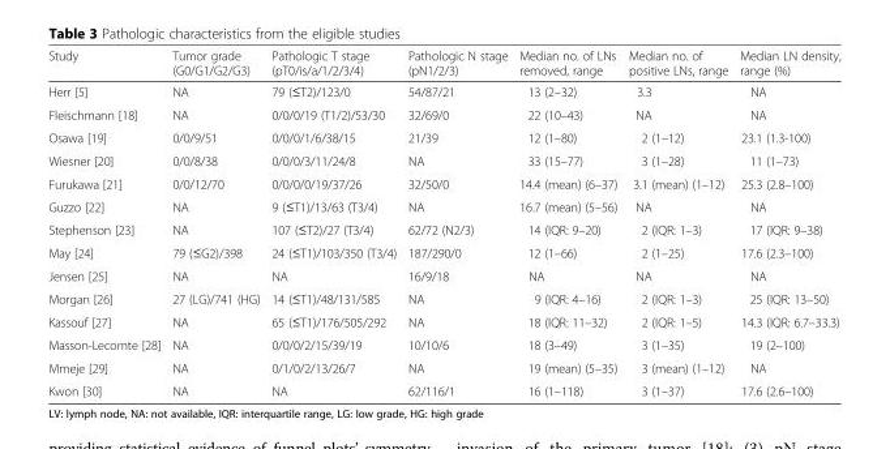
<table><thead><tr><td>Study</td><td>Tumor grade (G0/G1/G2/G3)</td><td>Pathologic T stage (pT0/is/a/1/2/3/4)</td><td>Pathologic N stage (pN1/2/3)</td><td>Median no. of LNs removed, range</td><td>Median no. of positive LNs, range</td><td>Median LN density, range (%)</td></tr></thead><tbody><tr><td>Herr [5]</td><td>NA</td><td>79 (≤T2)/123/0</td><td>54/87/21</td><td>13 (2–32)</td><td>3.3</td><td>NA</td></tr><tr><td>Fleischmann [18]</td><td>NA</td><td>0/0/0/19 (T1/2)/53/30</td><td>32/69/0</td><td>22 (10–43)</td><td>NA</td><td>NA</td></tr><tr><td>Osawa [19]</td><td>0/0/9/51</td><td>0/0/0/1/6/38/15</td><td>21/39</td><td>12 (1–80)</td><td>2 (1–12)</td><td>23.1 (1.3-100)</td></tr><tr><td>Wiesner [20]</td><td>0/0/8/38</td><td>0/0/0/3/11/24/8</td><td>NA</td><td>33 (15–77)</td><td>3 (1–28)</td><td>11 (1–73)</td></tr><tr><td>Furukawa [21]</td><td>0/0/12/70</td><td>0/0/0/0/19/37/26</td><td>32/50/0</td><td>14.4 (mean) (6–37)</td><td>3.1 (mean) (1–12)</td><td>25.3 (2.8–100)</td></tr><tr><td>Guzzo [22]</td><td>NA</td><td>9 (≤T1)/13/63 (T3/4)</td><td>NA</td><td>16.7 (mean) (5–56)</td><td>NA</td><td>NA</td></tr><tr><td>Stephenson [23]</td><td>NA</td><td>107 (≤T2)/27 (T3/4)</td><td>62/72 (N2/3)</td><td>14 (IQR: 9–20)</td><td>2 (IQR: 1–3)</td><td>17 (IQR: 9–38)</td></tr><tr><td>May [24]</td><td>79 (≤G2)/398</td><td>24 (≤T1)/103/350 (T3/4)</td><td>187/290/0</td><td>12 (1–66)</td><td>2 (1–25)</td><td>17.6 (2.3–100)</td></tr><tr><td>Jensen [25]</td><td>NA</td><td>NA</td><td>16/9/18</td><td>NA</td><td>NA</td><td>NA</td></tr><tr><td>Morgan [26]</td><td>27 (LG)/741 (HG)</td><td>14 (≤T1)/48/131/585</td><td>NA</td><td>9 (IQR: 4–16)</td><td>2 (IQR: 1–3)</td><td>25 (IQR: 13–50)</td></tr><tr><td>Kassouf [27]</td><td>NA</td><td>65 (≤T1)/176/505/292</td><td>NA</td><td>18 (IQR: 11–32)</td><td>2 (IQR: 1–5)</td><td>14.3 (IQR: 6.7–33.3)</td></tr><tr><td>Masson-Lecomte [28]</td><td>NA</td><td>0/0/0/2/15/39/19</td><td>10/10/6</td><td>18 (3–49)</td><td>3 (1–35)</td><td>19 (2–100)</td></tr><tr><td>Mmeje [29]</td><td>NA</td><td>0/1/0/2/13/26/7</td><td>NA</td><td>19 (mean) (5–35)</td><td>3 (mean) (1–12)</td><td>NA</td></tr><tr><td>Kwon [30]</td><td>NA</td><td>NA</td><td>62/116/1</td><td>16 (1–118)</td><td>3 (1–37)</td><td>17.6 (2.6–100)</td></tr></tbody></table>